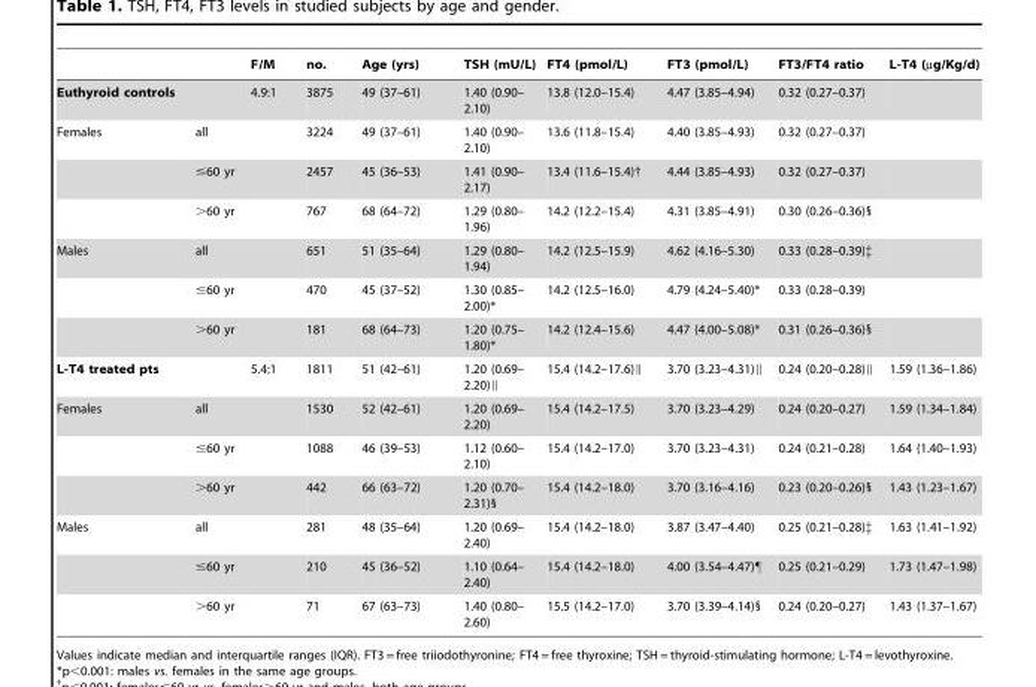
<table><thead><tr><td></td><td></td><td>F/M</td><td>no.</td><td>Age (yrs)</td><td>TSH (mU/L)</td><td>FT4 (pmol/L)</td><td>FT3 (pmol/L)</td><td>FT3/FT4 ratio</td><td>L-T4 (µg/Kg/d)</td></tr></thead><tbody><tr><td>Euthyroid controls</td><td></td><td>4.9:1</td><td>3875</td><td>49 (37–61)</td><td>1.40 (0.90– 2.10)</td><td>13.8 (12.0–15.4)</td><td>4.47 (3.85–4.94)</td><td>0.32 (0.27–0.37)</td><td></td></tr><tr><td rowspan="3">Females</td><td>all</td><td></td><td>3224</td><td>49 (37–61)</td><td>1.40 (0.90– 2.10)</td><td>13.6 (11.8–15.4)</td><td>4.40 (3.85–4.93)</td><td>0.32 (0.27–0.37)</td><td></td></tr><tr><td>≤60 yr</td><td></td><td>2457</td><td>45 (36–53)</td><td>1.41 (0.90– 2.17)</td><td>13.4 (11.6–15.4)†</td><td>4.44 (3.85–4.93)</td><td>0.32 (0.27–0.37)</td><td></td></tr><tr><td>&gt;60 yr</td><td></td><td>767</td><td>68 (64–72)</td><td>1.29 (0.80– 1.96)</td><td>14.2 (12.2–15.4)</td><td>4.31 (3.85–4.91)</td><td>0.30 (0.26–0.36)§</td><td></td></tr><tr><td rowspan="3">Males</td><td>all</td><td></td><td>651</td><td>51 (35–64)</td><td>1.29 (0.80– 1.94)</td><td>14.2 (12.5–15.9)</td><td>4.62 (4.16–5.30)</td><td>0.33 (0.28–0.39)‡</td><td></td></tr><tr><td>≤60 yr</td><td></td><td>470</td><td>45 (37–52)</td><td>1.30 (0.85– 2.00)*</td><td>14.2 (12.5–16.0)</td><td>4.79 (4.24–5.40)*</td><td>0.33 (0.28–0.39)</td><td></td></tr><tr><td>&gt;60 yr</td><td></td><td>181</td><td>68 (64–73)</td><td>1.20 (0.75– 1.80)*</td><td>14.2 (12.4–15.6)</td><td>4.47 (4.00–5.08)*</td><td>0.31 (0.26–0.36)§</td><td></td></tr><tr><td>L-T4 treated pts</td><td></td><td>5.4:1</td><td>1811</td><td>51 (42–61)</td><td>1.20 (0.69– 2.20)∥</td><td>15.4 (14.2–17.6)∥</td><td>3.70 (3.23–4.31)∥</td><td>0.24 (0.20–0.28)∥</td><td>1.59 (1.36–1.86)</td></tr><tr><td rowspan="3">Females</td><td>all</td><td></td><td>1530</td><td>52 (42–61)</td><td>1.20 (0.69– 2.20)</td><td>15.4 (14.2–17.5)</td><td>3.70 (3.23–4.29)</td><td>0.24 (0.20–0.27)</td><td>1.59 (1.34–1.84)</td></tr><tr><td>≤60 yr</td><td></td><td>1088</td><td>46 (39–53)</td><td>1.12 (0.60– 2.10)</td><td>15.4 (14.2–17.0)</td><td>3.70 (3.23–4.31)</td><td>0.24 (0.21–0.28)</td><td>1.64 (1.40–1.93)</td></tr><tr><td>&gt;60 yr</td><td></td><td>442</td><td>66 (63–72)</td><td>1.20 (0.70– 2.31)§</td><td>15.4 (14.2–18.0)</td><td>3.70 (3.16–4.16)</td><td>0.23 (0.20–0.26)§</td><td>1.43 (1.23–1.67)</td></tr><tr><td rowspan="3">Males</td><td>all</td><td></td><td>281</td><td>48 (35–64)</td><td>1.20 (0.69– 2.40)</td><td>15.4 (14.2–18.0)</td><td>3.87 (3.47–4.40)</td><td>0.25 (0.21–0.28)‡</td><td>1.63 (1.41–1.92)</td></tr><tr><td>≤60 yr</td><td></td><td>210</td><td>45 (36–52)</td><td>1.10 (0.64– 2.40)</td><td>15.4 (14.2–18.0)</td><td>4.00 (3.54–4.47)¶</td><td>0.25 (0.21–0.29)</td><td>1.73 (1.47–1.98)</td></tr><tr><td>&gt;60 yr</td><td></td><td>71</td><td>67 (63–73)</td><td>1.40 (0.80– 2.60)</td><td>15.5 (14.2–17.0)</td><td>3.70 (3.39–4.14)§</td><td>0.24 (0.20–0.27)</td><td>1.43 (1.37–1.67)</td></tr></tbody></table>